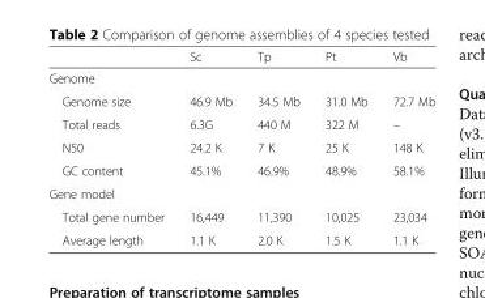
<table><thead><tr><td></td><td>Sc</td><td>Tp</td><td>Pt</td><td>Vb</td></tr></thead><tbody><tr><td colspan="5">Genome</td></tr><tr><td>Genome size</td><td>46.9 Mb</td><td>34.5 Mb</td><td>31.0 Mb</td><td>72.7 Mb</td></tr><tr><td>Total reads</td><td>6.3G</td><td>440 M</td><td>322 M</td><td>–</td></tr><tr><td>N50</td><td>24.2 K</td><td>7 K</td><td>25 K</td><td>148 K</td></tr><tr><td>GC content</td><td>45.1%</td><td>46.9%</td><td>48.9%</td><td>58.1%</td></tr><tr><td colspan="5">Gene model</td></tr><tr><td>Total gene number</td><td>16,449</td><td>11,390</td><td>10,025</td><td>23,034</td></tr><tr><td>Average length</td><td>1.1 K</td><td>2.0 K</td><td>1.5 K</td><td>1.1 K</td></tr></tbody></table>